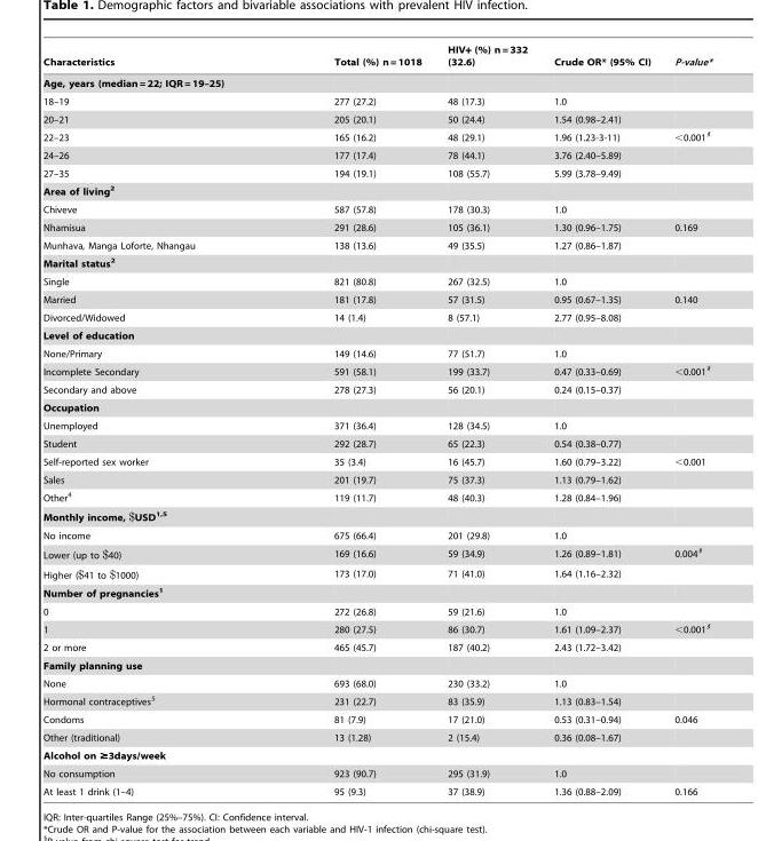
<table><thead><tr><td>Characteristics</td><td>Total (%) n = 1018</td><td>HIV+ (%) n = 332 (32.6)</td><td>Crude OR* (95% CI)</td><td>P-value*</td></tr></thead><tbody><tr><td colspan="5">Age, years (median = 22; IQR = 19–25)</td></tr><tr><td>18–19</td><td>277 (27.2)</td><td>48 (17.3)</td><td>1.0</td><td></td></tr><tr><td>20–21</td><td>205 (20.1)</td><td>50 (24.4)</td><td>1.54 (0.98–2.41)</td><td></td></tr><tr><td>22–23</td><td>165 (16.2)</td><td>48 (29.1)</td><td>1.96 (1.23-3-11)</td><td>&lt;0.001§</td></tr><tr><td>24–26</td><td>177 (17.4)</td><td>78 (44.1)</td><td>3.76 (2.40–5.89)</td><td></td></tr><tr><td>27–35</td><td>194 (19.1)</td><td>108 (55.7)</td><td>5.99 (3.78–9.49)</td><td></td></tr><tr><td colspan="5">Area of living2</td></tr><tr><td>Chiveve</td><td>587 (57.8)</td><td>178 (30.3)</td><td>1.0</td><td></td></tr><tr><td>Nhamisua</td><td>291 (28.6)</td><td>105 (36.1)</td><td>1.30 (0.96–1.75)</td><td>0.169</td></tr><tr><td>Munhava, Manga Loforte, Nhangau</td><td>138 (13.6)</td><td>49 (35.5)</td><td>1.27 (0.86–1.87)</td><td></td></tr><tr><td colspan="5">Marital status2</td></tr><tr><td>Single</td><td>821 (80.8)</td><td>267 (32.5)</td><td>1.0</td><td></td></tr><tr><td>Married</td><td>181 (17.8)</td><td>57 (31.5)</td><td>0.95 (0.67–1.35)</td><td>0.140</td></tr><tr><td>Divorced/Widowed</td><td>14 (1.4)</td><td>8 (57.1)</td><td>2.77 (0.95–8.08)</td><td></td></tr><tr><td colspan="5">Level of education</td></tr><tr><td>None/Primary</td><td>149 (14.6)</td><td>77 (51.7)</td><td>1.0</td><td></td></tr><tr><td>Incomplete Secondary</td><td>591 (58.1)</td><td>199 (33.7)</td><td>0.47 (0.33–0.69)</td><td>&lt;0.001§</td></tr><tr><td>Secondary and above</td><td>278 (27.3)</td><td>56 (20.1)</td><td>0.24 (0.15–0.37)</td><td></td></tr><tr><td colspan="5">Occupation</td></tr><tr><td>Unemployed</td><td>371 (36.4)</td><td>128 (34.5)</td><td>1.0</td><td></td></tr><tr><td>Student</td><td>292 (28.7)</td><td>65 (22.3)</td><td>0.54 (0.38–0.77)</td><td></td></tr><tr><td>Self-reported sex worker</td><td>35 (3.4)</td><td>16 (45.7)</td><td>1.60 (0.79–3.22)</td><td>&lt;0.001</td></tr><tr><td>Sales</td><td>201 (19.7)</td><td>75 (37.3)</td><td>1.13 (0.79–1.62)</td><td></td></tr><tr><td>Other<sup>4</sup></td><td>119 (11.7)</td><td>48 (40.3)</td><td>1.28 (0.84–1.96)</td><td></td></tr><tr><td colspan="5">Monthly income, $USD1,5</td></tr><tr><td>No income</td><td>675 (66.4)</td><td>201 (29.8)</td><td>1.0</td><td></td></tr><tr><td>Lower (up to $40)</td><td>169 (16.6)</td><td>59 (34.9)</td><td>1.26 (0.89–1.81)</td><td>0.004§</td></tr><tr><td>Higher ($41 to $1000)</td><td>173 (17.0)</td><td>71 (41.0)</td><td>1.64 (1.16–2.32)</td><td></td></tr><tr><td colspan="5">Number of pregnancies1</td></tr><tr><td>0</td><td>272 (26.8)</td><td>59 (21.6)</td><td>1.0</td><td></td></tr><tr><td>1</td><td>280 (27.5)</td><td>86 (30.7)</td><td>1.61 (1.09–2.37)</td><td>&lt;0.001§</td></tr><tr><td>2 or more</td><td>465 (45.7)</td><td>187 (40.2)</td><td>2.43 (1.72–3.42)</td><td></td></tr><tr><td colspan="5">Family planning use</td></tr><tr><td>None</td><td>693 (68.0)</td><td>230 (33.2)</td><td>1.0</td><td></td></tr><tr><td>Hormonal contraceptives<sup>5</sup></td><td>231 (22.7)</td><td>83 (35.9)</td><td>1.13 (0.83–1.54)</td><td></td></tr><tr><td>Condoms</td><td>81 (7.9)</td><td>17 (21.0)</td><td>0.53 (0.31–0.94)</td><td>0.046</td></tr><tr><td>Other (traditional)</td><td>13 (1.28)</td><td>2 (15.4)</td><td>0.36 (0.08–1.67)</td><td></td></tr><tr><td colspan="5">Alcohol on ≥3days/week</td></tr><tr><td>No consumption</td><td>923 (90.7)</td><td>295 (31.9)</td><td>1.0</td><td></td></tr><tr><td>At least 1 drink (1–4)</td><td>95 (9.3)</td><td>37 (38.9)</td><td>1.36 (0.88–2.09)</td><td>0.166</td></tr></tbody></table>